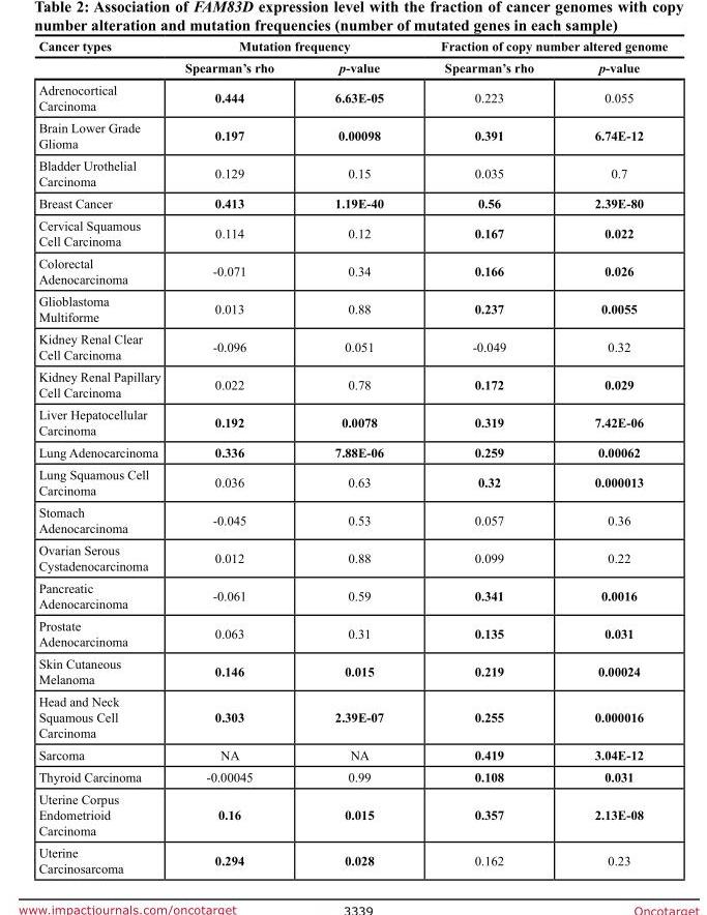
<table><thead><tr><td rowspan="2">Cancer types</td><td colspan="2">Mutation frequency</td><td colspan="2">Fraction of copy number altered genome</td></tr><tr><td>Spearman’s rho</td><td>p-value</td><td>Spearman’s rho</td><td>p-value</td></tr></thead><tbody><tr><td>Adrenocortical Carcinoma</td><td>0.444</td><td>6.63E-05</td><td>0.223</td><td>0.055</td></tr><tr><td>Brain Lower Grade Glioma</td><td>0.197</td><td>0.00098</td><td>0.391</td><td>6.74E-12</td></tr><tr><td>Bladder Urothelial Carcinoma</td><td>0.129</td><td>0.15</td><td>0.035</td><td>0.7</td></tr><tr><td>Breast Cancer</td><td>0.413</td><td>1.19E-40</td><td>0.56</td><td>2.39E-80</td></tr><tr><td>Cervical Squamous Cell Carcinoma</td><td>0.114</td><td>0.12</td><td>0.167</td><td>0.022</td></tr><tr><td>Colorectal Adenocarcinoma</td><td>-0.071</td><td>0.34</td><td>0.166</td><td>0.026</td></tr><tr><td>Glioblastoma Multiforme</td><td>0.013</td><td>0.88</td><td>0.237</td><td>0.0055</td></tr><tr><td>Kidney Renal Clear Cell Carcinoma</td><td>-0.096</td><td>0.051</td><td>-0.049</td><td>0.32</td></tr><tr><td>Kidney Renal Papillary Cell Carcinoma</td><td>0.022</td><td>0.78</td><td>0.172</td><td>0.029</td></tr><tr><td>Liver Hepatocellular Carcinoma</td><td>0.192</td><td>0.0078</td><td>0.319</td><td>7.42E-06</td></tr><tr><td>Lung Adenocarcinoma</td><td>0.336</td><td>7.88E-06</td><td>0.259</td><td>0.00062</td></tr><tr><td>Lung Squamous Cell Carcinoma</td><td>0.036</td><td>0.63</td><td>0.32</td><td>0.000013</td></tr><tr><td>Stomach Adenocarcinoma</td><td>-0.045</td><td>0.53</td><td>0.057</td><td>0.36</td></tr><tr><td>Ovarian Serous Cystadenocarcinoma</td><td>0.012</td><td>0.88</td><td>0.099</td><td>0.22</td></tr><tr><td>Pancreatic Adenocarcinoma</td><td>-0.061</td><td>0.59</td><td>0.341</td><td>0.0016</td></tr><tr><td>Prostate Adenocarcinoma</td><td>0.063</td><td>0.31</td><td>0.135</td><td>0.031</td></tr><tr><td>Skin Cutaneous Melanoma</td><td>0.146</td><td>0.015</td><td>0.219</td><td>0.00024</td></tr><tr><td>Head and Neck Squamous Cell Carcinoma</td><td>0.303</td><td>2.39E-07</td><td>0.255</td><td>0.000016</td></tr><tr><td>Sarcoma</td><td>NA</td><td>NA</td><td>0.419</td><td>3.04E-12</td></tr><tr><td>Thyroid Carcinoma</td><td>-0.00045</td><td>0.99</td><td>0.108</td><td>0.031</td></tr><tr><td>Uterine Corpus Endometrioid Carcinoma</td><td>0.16</td><td>0.015</td><td>0.357</td><td>2.13E-08</td></tr><tr><td>Uterine Carcinosarcoma</td><td>0.294</td><td>0.028</td><td>0.162</td><td>0.23</td></tr></tbody></table>